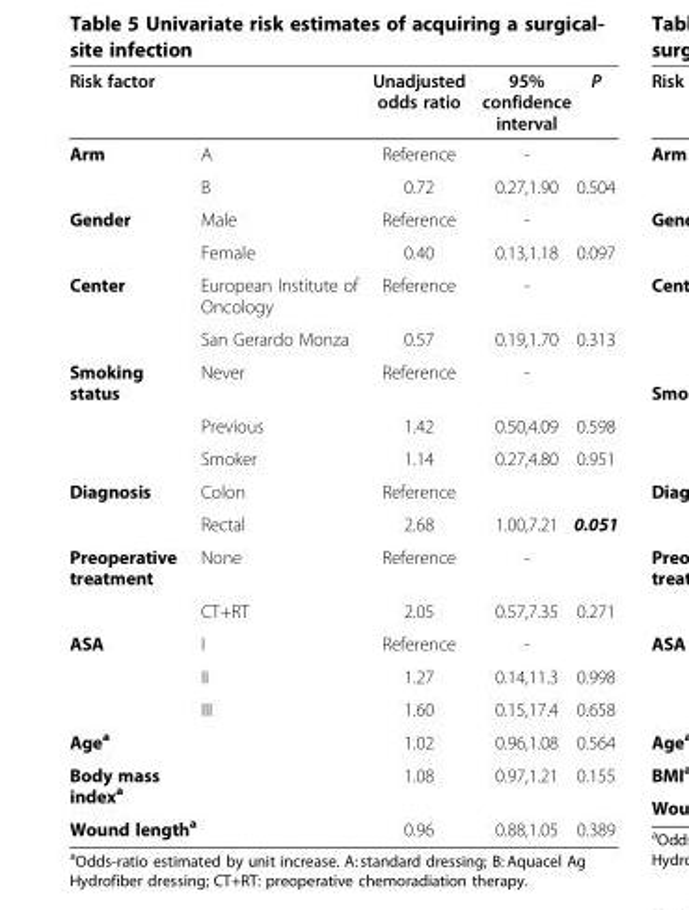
<table><thead><tr><td colspan="2">Risk factor</td><td rowspan="2">Unadjusted odds ratio Reference</td><td rowspan="2">95% confidence interval -</td><td rowspan="2">P</td></tr><tr><td>Arm</td><td>A</td></tr></thead><tbody><tr><td></td><td>B</td><td>0.72</td><td>0.27,1.90</td><td>0.504</td></tr><tr><td rowspan="2">Gender</td><td>Male</td><td>Reference</td><td>-</td><td></td></tr><tr><td>Female</td><td>0.40</td><td>0.13,1.18</td><td>0.097</td></tr><tr><td rowspan="2">Center</td><td>European Institute of Oncology</td><td>Reference</td><td>-</td><td></td></tr><tr><td>San Gerardo Monza</td><td>0.57</td><td>0.19,1.70</td><td>0.313</td></tr><tr><td rowspan="3">Smoking status</td><td>Never</td><td>Reference</td><td>-</td><td></td></tr><tr><td>Previous</td><td>1.42</td><td>0.50,4.09</td><td>0.598</td></tr><tr><td>Smoker</td><td>1.14</td><td>0.27,4.80</td><td>0.951</td></tr><tr><td rowspan="2">Diagnosis</td><td>Colon</td><td>Reference</td><td></td><td></td></tr><tr><td>Rectal</td><td>2.68</td><td>1.00,7.21</td><td>0.051</td></tr><tr><td rowspan="2">Preoperative treatment</td><td>None</td><td>Reference</td><td>-</td><td></td></tr><tr><td>CT+RT</td><td>2.05</td><td>0.57,7.35</td><td>0.271</td></tr><tr><td rowspan="3">ASA</td><td>I</td><td>Reference</td><td>-</td><td></td></tr><tr><td>II</td><td>1.27</td><td>0.14,11.3</td><td>0.998</td></tr><tr><td>III</td><td>1.60</td><td>0.15,17.4</td><td>0.658</td></tr><tr><td>Age<sup>a</sup></td><td></td><td>1.02</td><td>0.96,1.08</td><td>0.564</td></tr><tr><td>Body mass index<sup>a</sup></td><td></td><td>1.08</td><td>0.97,1.21</td><td>0.155</td></tr><tr><td>Wound length<sup>a</sup></td><td></td><td>0.96</td><td>0.88,1.05</td><td>0.389</td></tr></tbody></table>